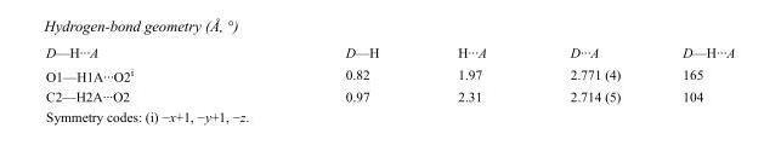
<table><tbody><tr><td>D—H···A</td><td>D—H</td><td>H···A</td><td>D···A</td><td>D—H···A</td></tr><tr><td>O1—H1A···O2<sup>i</sup></td><td>0.82</td><td>1.97</td><td>2.771 (4)</td><td>165</td></tr><tr><td>C2—H2A···O2</td><td>0.97</td><td>2.31</td><td>2.714 (5)</td><td>104</td></tr></tbody></table>